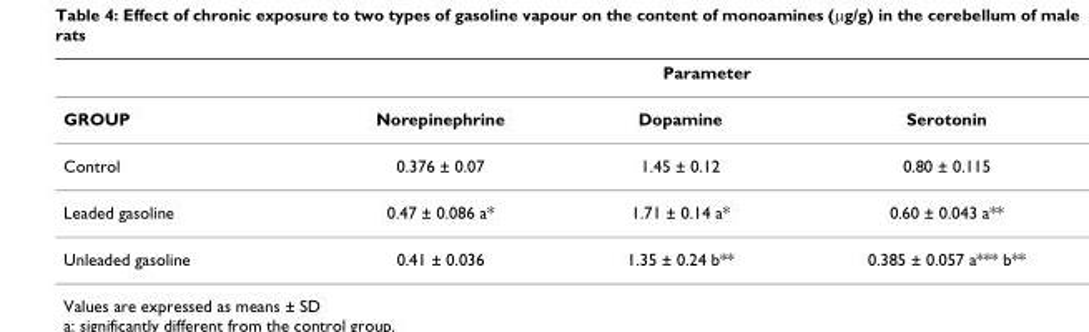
<table><thead><tr><td rowspan="2">GROUP</td><td colspan="3">Parameter</td></tr><tr><td>Norepinephrine</td><td>Dopamine</td><td>Serotonin</td></tr></thead><tbody><tr><td>Control</td><td>0.376 ± 0.07</td><td>1.45 ± 0.12</td><td>0.80 ± 0.115</td></tr><tr><td>Leaded gasoline</td><td>0.47 ± 0.086 a*</td><td>1.71 ± 0.14 a*</td><td>0.60 ± 0.043 a**</td></tr><tr><td>Unleaded gasoline</td><td>0.41 ± 0.036</td><td>1.35 ± 0.24 b**</td><td>0.385 ± 0.057 a*** b**</td></tr></tbody></table>